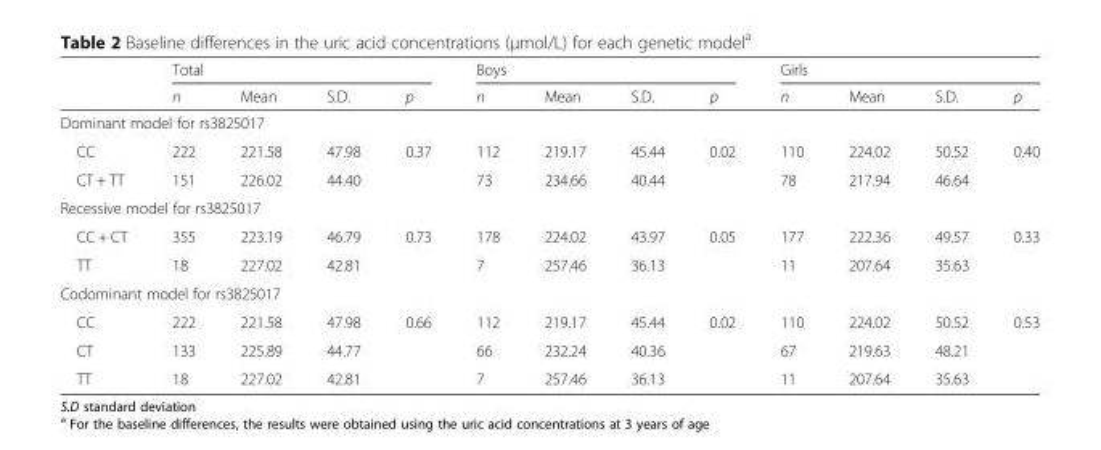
<table><thead><tr><td rowspan="2"></td><td colspan="4">Total</td><td colspan="4">Boys</td><td colspan="4">Girls</td></tr><tr><td>n</td><td>Mean</td><td>S.D.</td><td>p</td><td>n</td><td>Mean</td><td>S.D.</td><td>p</td><td>n</td><td>Mean</td><td>S.D.</td><td>p</td></tr></thead><tbody><tr><td colspan="13">Dominant model for rs3825017</td></tr><tr><td>CC</td><td>222</td><td>221.58</td><td>47.98</td><td>0.37</td><td>112</td><td>219.17</td><td>45.44</td><td>0.02</td><td>110</td><td>224.02</td><td>50.52</td><td>0.40</td></tr><tr><td>CT + TT</td><td>151</td><td>226.02</td><td>44.40</td><td></td><td>73</td><td>234.66</td><td>40.44</td><td></td><td>78</td><td>217.94</td><td>46.64</td><td></td></tr><tr><td colspan="13">Recessive model for rs3825017</td></tr><tr><td>CC + CT</td><td>355</td><td>223.19</td><td>46.79</td><td>0.73</td><td>178</td><td>224.02</td><td>43.97</td><td>0.05</td><td>177</td><td>222.36</td><td>49.57</td><td>0.33</td></tr><tr><td>TT</td><td>18</td><td>227.02</td><td>42.81</td><td></td><td>7</td><td>257.46</td><td>36.13</td><td></td><td>11</td><td>207.64</td><td>35.63</td><td></td></tr><tr><td colspan="13">Codominant model for rs3825017</td></tr><tr><td>CC</td><td>222</td><td>221.58</td><td>47.98</td><td>0.66</td><td>112</td><td>219.17</td><td>45.44</td><td>0.02</td><td>110</td><td>224.02</td><td>50.52</td><td>0.53</td></tr><tr><td>CT</td><td>133</td><td>225.89</td><td>44.77</td><td></td><td>66</td><td>232.24</td><td>40.36</td><td></td><td>67</td><td>219.63</td><td>48.21</td><td></td></tr><tr><td>TT</td><td>18</td><td>227.02</td><td>42.81</td><td></td><td>7</td><td>257.46</td><td>36.13</td><td></td><td>11</td><td>207.64</td><td>35.63</td><td></td></tr></tbody></table>